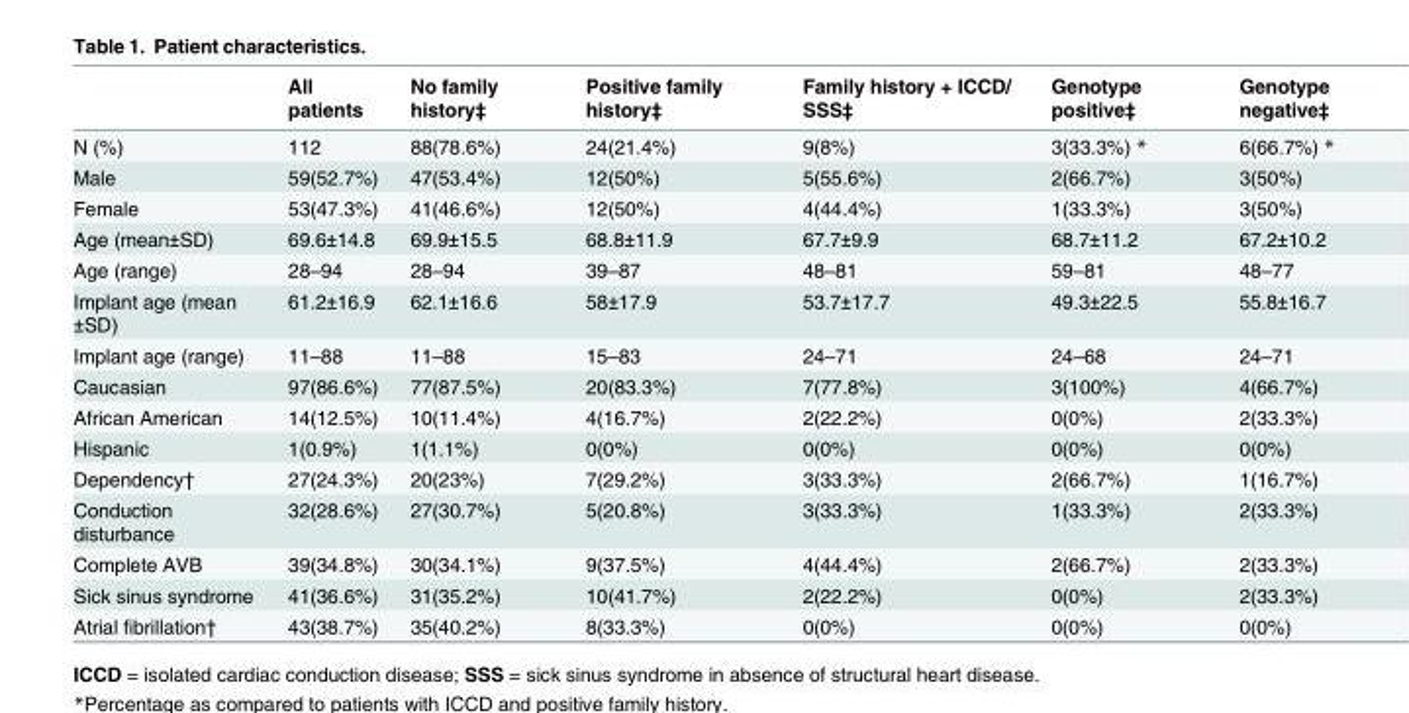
<table><thead><tr><td></td><td>All patients</td><td>No family history‡</td><td>Positive family history‡</td><td>Family history + ICCD/ SSS‡</td><td>Genotype positive‡</td><td>Genotype negative‡</td></tr></thead><tbody><tr><td>N (%)</td><td>112</td><td>88(78.6%)</td><td>24(21.4%)</td><td>9(8%)</td><td>3(33.3%) *</td><td>6(66.7%) *</td></tr><tr><td>Male</td><td>59(52.7%)</td><td>47(53.4%)</td><td>12(50%)</td><td>5(55.6%)</td><td>2(66.7%)</td><td>3(50%)</td></tr><tr><td>Female</td><td>53(47.3%)</td><td>41(46.6%)</td><td>12(50%)</td><td>4(44.4%)</td><td>1(33.3%)</td><td>3(50%)</td></tr><tr><td>Age (mean±SD)</td><td>69.6±14.8</td><td>69.9±15.5</td><td>68.8±11.9</td><td>67.7±9.9</td><td>68.7±11.2</td><td>67.2±10.2</td></tr><tr><td>Age (range)</td><td>28–94</td><td>28–94</td><td>39–87</td><td>48–81</td><td>59–81</td><td>48–77</td></tr><tr><td>Implant age (mean ±SD)</td><td>61.2±16.9</td><td>62.1±16.6</td><td>58±17.9</td><td>53.7±17.7</td><td>49.3±22.5</td><td>55.8±16.7</td></tr><tr><td>Implant age (range)</td><td>11–88</td><td>11–88</td><td>15–83</td><td>24–71</td><td>24–68</td><td>24–71</td></tr><tr><td>Caucasian</td><td>97(86.6%)</td><td>77(87.5%)</td><td>20(83.3%)</td><td>7(77.8%)</td><td>3(100%)</td><td>4(66.7%)</td></tr><tr><td>African American</td><td>14(12.5%)</td><td>10(11.4%)</td><td>4(16.7%)</td><td>2(22.2%)</td><td>0(0%)</td><td>2(33.3%)</td></tr><tr><td>Hispanic</td><td>1(0.9%)</td><td>1(1.1%)</td><td>0(0%)</td><td>0(0%)</td><td>0(0%)</td><td>0(0%)</td></tr><tr><td>Dependency†</td><td>27(24.3%)</td><td>20(23%)</td><td>7(29.2%)</td><td>3(33.3%)</td><td>2(66.7%)</td><td>1(16.7%)</td></tr><tr><td>Conduction disturbance</td><td>32(28.6%)</td><td>27(30.7%)</td><td>5(20.8%)</td><td>3(33.3%)</td><td>1(33.3%)</td><td>2(33.3%)</td></tr><tr><td>Complete AVB</td><td>39(34.8%)</td><td>30(34.1%)</td><td>9(37.5%)</td><td>4(44.4%)</td><td>2(66.7%)</td><td>2(33.3%)</td></tr><tr><td>Sick sinus syndrome</td><td>41(36.6%)</td><td>31(35.2%)</td><td>10(41.7%)</td><td>2(22.2%)</td><td>0(0%)</td><td>2(33.3%)</td></tr><tr><td>Atrial fibrillation†</td><td>43(38.7%)</td><td>35(40.2%)</td><td>8(33.3%)</td><td>0(0%)</td><td>0(0%)</td><td>0(0%)</td></tr></tbody></table>